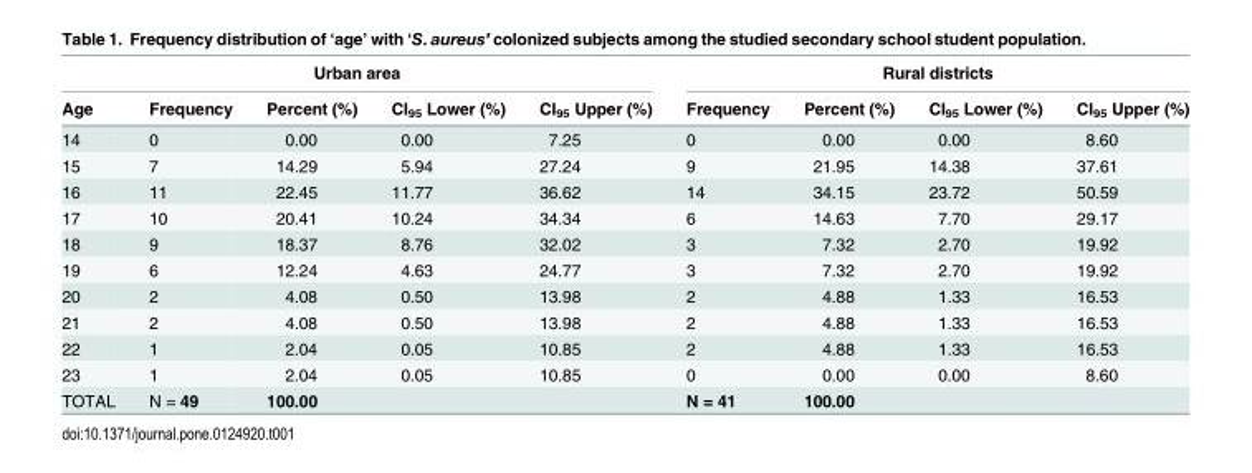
<table><thead><tr><td colspan="5">Urban area</td><td colspan="4">Rural districts</td></tr><tr><td>Age</td><td>Frequency</td><td>Percent (%)</td><td>CI<sub>95</sub> Lower (%)</td><td>CI<sub>95</sub> Upper (%)</td><td>Frequency</td><td>Percent (%)</td><td>CI<sub>95</sub> Lower (%)</td><td>CI<sub>95</sub> Upper (%)</td></tr></thead><tbody><tr><td>14</td><td>0</td><td>0.00</td><td>0.00</td><td>7.25</td><td>0</td><td>0.00</td><td>0.00</td><td>8.60</td></tr><tr><td>15</td><td>7</td><td>14.29</td><td>5.94</td><td>27.24</td><td>9</td><td>21.95</td><td>14.38</td><td>37.61</td></tr><tr><td>16</td><td>11</td><td>22.45</td><td>11.77</td><td>36.62</td><td>14</td><td>34.15</td><td>23.72</td><td>50.59</td></tr><tr><td>17</td><td>10</td><td>20.41</td><td>10.24</td><td>34.34</td><td>6</td><td>14.63</td><td>7.70</td><td>29.17</td></tr><tr><td>18</td><td>9</td><td>18.37</td><td>8.76</td><td>32.02</td><td>3</td><td>7.32</td><td>2.70</td><td>19.92</td></tr><tr><td>19</td><td>6</td><td>12.24</td><td>4.63</td><td>24.77</td><td>3</td><td>7.32</td><td>2.70</td><td>19.92</td></tr><tr><td>20</td><td>2</td><td>4.08</td><td>0.50</td><td>13.98</td><td>2</td><td>4.88</td><td>1.33</td><td>16.53</td></tr><tr><td>21</td><td>2</td><td>4.08</td><td>0.50</td><td>13.98</td><td>2</td><td>4.88</td><td>1.33</td><td>16.53</td></tr><tr><td>22</td><td>1</td><td>2.04</td><td>0.05</td><td>10.85</td><td>2</td><td>4.88</td><td>1.33</td><td>16.53</td></tr><tr><td>23</td><td>1</td><td>2.04</td><td>0.05</td><td>10.85</td><td>0</td><td>0.00</td><td>0.00</td><td>8.60</td></tr><tr><td>TOTAL</td><td>N = 49</td><td>100.00</td><td></td><td></td><td>N = 41</td><td>100.00</td><td></td><td></td></tr></tbody></table>